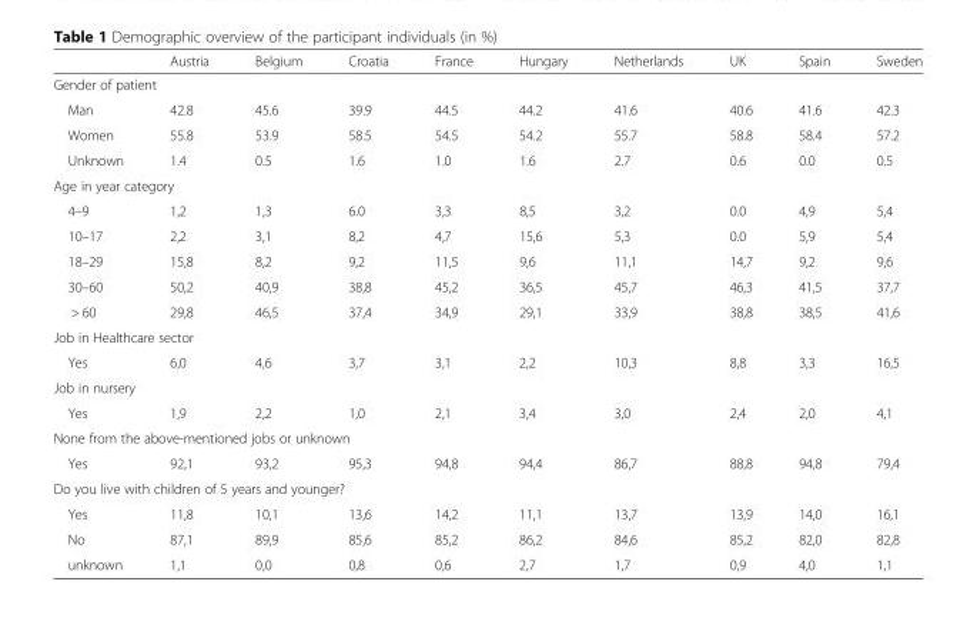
<table><thead><tr><td></td><td>Austria</td><td>Belgium</td><td>Croatia</td><td>France</td><td>Hungary</td><td>Netherlands</td><td>UK</td><td>Spain</td><td>Sweden</td></tr></thead><tbody><tr><td colspan="10">Gender of patient</td></tr><tr><td>Man</td><td>42.8</td><td>45.6</td><td>39.9</td><td>44.5</td><td>44.2</td><td>41.6</td><td>40.6</td><td>41.6</td><td>42.3</td></tr><tr><td>Women</td><td>55.8</td><td>53.9</td><td>58.5</td><td>54.5</td><td>54.2</td><td>55.7</td><td>58.8</td><td>58.4</td><td>57.2</td></tr><tr><td>Unknown</td><td>1.4</td><td>0.5</td><td>1.6</td><td>1.0</td><td>1.6</td><td>2.7</td><td>0.6</td><td>0.0</td><td>0.5</td></tr><tr><td colspan="10">Age in year category</td></tr><tr><td>4–9</td><td>1,2</td><td>1,3</td><td>6.0</td><td>3,3</td><td>8,5</td><td>3,2</td><td>0.0</td><td>4,9</td><td>5,4</td></tr><tr><td>10–17</td><td>2,2</td><td>3,1</td><td>8,2</td><td>4,7</td><td>15,6</td><td>5,3</td><td>0.0</td><td>5,9</td><td>5,4</td></tr><tr><td>18–29</td><td>15,8</td><td>8,2</td><td>9,2</td><td>11,5</td><td>9,6</td><td>11,1</td><td>14,7</td><td>9,2</td><td>9,6</td></tr><tr><td>30–60</td><td>50,2</td><td>40,9</td><td>38,8</td><td>45,2</td><td>36,5</td><td>45,7</td><td>46,3</td><td>41,5</td><td>37,7</td></tr><tr><td>&gt; 60</td><td>29,8</td><td>46,5</td><td>37,4</td><td>34,9</td><td>29,1</td><td>33,9</td><td>38,8</td><td>38,5</td><td>41,6</td></tr><tr><td colspan="10">Job in Healthcare sector</td></tr><tr><td>Yes</td><td>6,0</td><td>4,6</td><td>3,7</td><td>3,1</td><td>2,2</td><td>10,3</td><td>8,8</td><td>3,3</td><td>16,5</td></tr><tr><td colspan="10">Job in nursery</td></tr><tr><td>Yes</td><td>1,9</td><td>2,2</td><td>1,0</td><td>2,1</td><td>3,4</td><td>3,0</td><td>2,4</td><td>2,0</td><td>4,1</td></tr><tr><td colspan="10">None from the above-mentioned jobs or unknown</td></tr><tr><td>Yes</td><td>92,1</td><td>93,2</td><td>95,3</td><td>94,8</td><td>94,4</td><td>86,7</td><td>88,8</td><td>94,8</td><td>79,4</td></tr><tr><td colspan="10">Do you live with children of 5 years and younger?</td></tr><tr><td>Yes</td><td>11,8</td><td>10,1</td><td>13,6</td><td>14,2</td><td>11,1</td><td>13,7</td><td>13,9</td><td>14,0</td><td>16,1</td></tr><tr><td>No</td><td>87,1</td><td>89,9</td><td>85,6</td><td>85,2</td><td>86,2</td><td>84,6</td><td>85,2</td><td>82,0</td><td>82,8</td></tr><tr><td>unknown</td><td>1,1</td><td>0,0</td><td>0,8</td><td>0,6</td><td>2,7</td><td>1,7</td><td>0,9</td><td>4,0</td><td>1,1</td></tr></tbody></table>